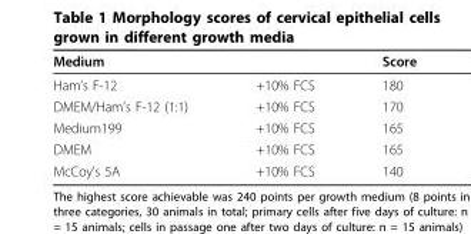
<table><thead><tr><td>Medium</td><td></td><td>Score</td></tr></thead><tbody><tr><td>Ham’s F-12</td><td>+10% FCS</td><td>180</td></tr><tr><td>DMEM/Ham’s F-12 (1:1)</td><td>+10% FCS</td><td>170</td></tr><tr><td>Medium199</td><td>+10% FCS</td><td>165</td></tr><tr><td>DMEM</td><td>+10% FCS</td><td>165</td></tr><tr><td>McCoy’s 5A</td><td>+10% FCS</td><td>140</td></tr></tbody></table>